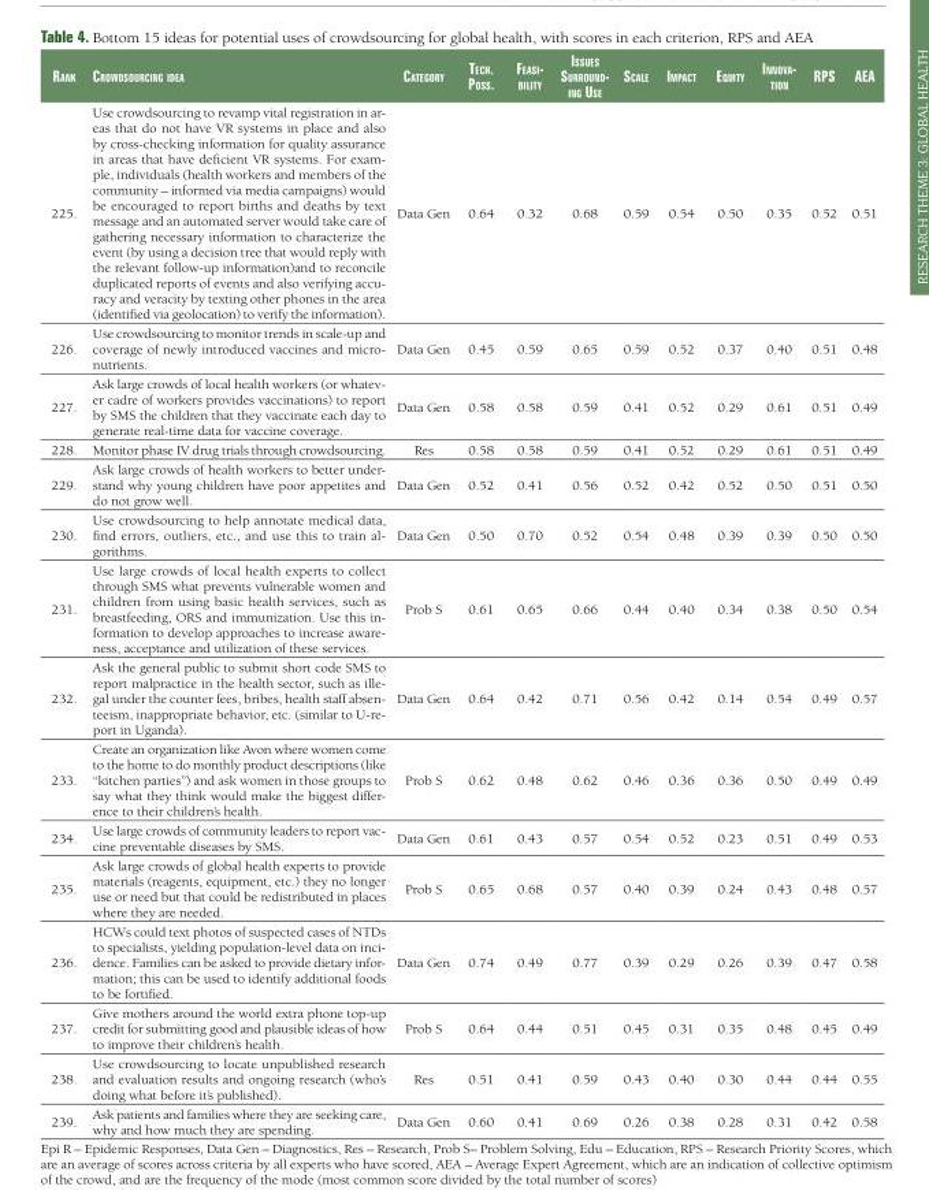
<table><thead><tr><td>rank</td><td>CrowdsourCing idea</td><td>Category</td><td>teCh. poss.</td><td>Feasi- bility</td><td>issues surround- ing use</td><td>sCale</td><td>impaCt</td><td>equity</td><td>innova- tion</td><td>rps</td><td>aea</td></tr></thead><tbody><tr><td>225.</td><td>Use crowdsourcing to revamp vital registration in ar- eas that do not have VR systems in place and also by cross-checking information for quality assurance in areas that have deficient VR systems. For exam- ple, individuals (health workers and members of the community – informed via media campaigns) would be encouraged to report births and deaths by text message and an automated server would take care of gathering necessary information to characterize the event (by using a decision tree that would reply with the relevant follow-up information)and to reconcile duplicated reports of events and also verifying accu- racy and veracity by texting other phones in the area (identified via geolocation) to verify the information).</td><td>Data Gen</td><td>0.64</td><td>0.32</td><td>0.68</td><td>0.59</td><td>0.54</td><td>0.50</td><td>0.35</td><td>0.52</td><td>0.51</td></tr><tr><td>226.</td><td>Use crowdsourcing to monitor trends in scale-up and coverage of newly introduced vaccines and micro- nutrients.</td><td>Data Gen</td><td>0.45</td><td>0.59</td><td>0.65</td><td>0.59</td><td>0.52</td><td>0.37</td><td>0.40</td><td>0.51</td><td>0.48</td></tr><tr><td>227.</td><td>Ask large crowds of local health workers (or whatev- er cadre of workers provides vaccinations) to report by SMS the children that they vaccinate each day to generate real-time data for vaccine coverage.</td><td>Data Gen</td><td>0.58</td><td>0.58</td><td>0.59</td><td>0.41</td><td>0.52</td><td>0.29</td><td>0.61</td><td>0.51</td><td>0.49</td></tr><tr><td>228.</td><td>Monitor phase IV drug trials through crowdsourcing.</td><td>Res</td><td>0.58</td><td>0.58</td><td>0.59</td><td>0.41</td><td>0.52</td><td>0.29</td><td>0.61</td><td>0.51</td><td>0.49</td></tr><tr><td>229.</td><td>Ask large crowds of health workers to better under- stand why young children have poor appetites and do not grow well.</td><td>Data Gen</td><td>0.52</td><td>0.41</td><td>0.56</td><td>0.52</td><td>0.42</td><td>0.52</td><td>0.50</td><td>0.51</td><td>0.50</td></tr><tr><td>230.</td><td>Use crowdsourcing to help annotate medical data, find errors, outliers, etc., and use this to train al- gorithms.</td><td>Data Gen</td><td>0.50</td><td>0.70</td><td>0.52</td><td>0.54</td><td>0.48</td><td>0.39</td><td>0.39</td><td>0.50</td><td>0.50</td></tr><tr><td>231.</td><td>Use large crowds of local health experts to collect through SMS what prevents vulnerable women and children from using basic health services, such as breastfeeding, ORS and immunization. Use this in- formation to develop approaches to increase aware- ness, acceptance and utilization of these services.</td><td>Prob S</td><td>0.61</td><td>0.65</td><td>0.66</td><td>0.44</td><td>0.40</td><td>0.34</td><td>0.38</td><td>0.50</td><td>0.54</td></tr><tr><td>232.</td><td>Ask the general public to submit short code SMS to report malpractice in the health sector, such as ille- gal under the counter fees, bribes, health staff absen- teeism, inappropriate behavior, etc. (similar to U-re- port in Uganda).</td><td>Data Gen</td><td>0.64</td><td>0.42</td><td>0.71</td><td>0.56</td><td>0.42</td><td>0.14</td><td>0.54</td><td>0.49</td><td>0.57</td></tr><tr><td>233.</td><td>Create an organization like Avon where women come to the home to do monthly product descriptions (like “kitchen parties”) and ask women in those groups to say what they think would make the biggest differ- ence to their children’s health.</td><td>Prob S</td><td>0.62</td><td>0.48</td><td>0.62</td><td>0.46</td><td>0.36</td><td>0.36</td><td>0.50</td><td>0.49</td><td>0.49</td></tr><tr><td>234.</td><td>Use large crowds of community leaders to report vac- cine preventable diseases by SMS.</td><td>Data Gen</td><td>0.61</td><td>0.43</td><td>0.57</td><td>0.54</td><td>0.52</td><td>0.23</td><td>0.51</td><td>0.49</td><td>0.53</td></tr><tr><td>235.</td><td>Ask large crowds of global health experts to provide materials (reagents, equipment, etc.) they no longer use or need but that could be redistributed in places where they are needed.</td><td>Prob S</td><td>0.65</td><td>0.68</td><td>0.57</td><td>0.40</td><td>0.39</td><td>0.24</td><td>0.43</td><td>0.48</td><td>0.57</td></tr><tr><td>236.</td><td>HCWs could text photos of suspected cases of NTDs to specialists, yielding population-level data on inci- dence. Families can be asked to provide dietary infor- mation; this can be used to identify additional foods to be fortified.</td><td>Data Gen</td><td>0.74</td><td>0.49</td><td>0.77</td><td>0.39</td><td>0.29</td><td>0.26</td><td>0.39</td><td>0.47</td><td>0.58</td></tr><tr><td>237.</td><td>Give mothers around the world extra phone top-up credit for submitting good and plausible ideas of how to improve their children’s health.</td><td>Prob S</td><td>0.64</td><td>0.44</td><td>0.51</td><td>0.45</td><td>0.31</td><td>0.35</td><td>0.48</td><td>0.45</td><td>0.49</td></tr><tr><td>238.</td><td>Use crowdsourcing to locate unpublished research and evaluation results and ongoing research (who’s doing what before it’s published).</td><td>Res</td><td>0.51</td><td>0.41</td><td>0.59</td><td>0.43</td><td>0.40</td><td>0.30</td><td>0.44</td><td>0.44</td><td>0.55</td></tr><tr><td>239.</td><td>Ask patients and families where they are seeking care, why and how much they are spending.</td><td>Data Gen</td><td>0.60</td><td>0.41</td><td>0.69</td><td>0.26</td><td>0.38</td><td>0.28</td><td>0.31</td><td>0.42</td><td>0.58</td></tr></tbody></table>